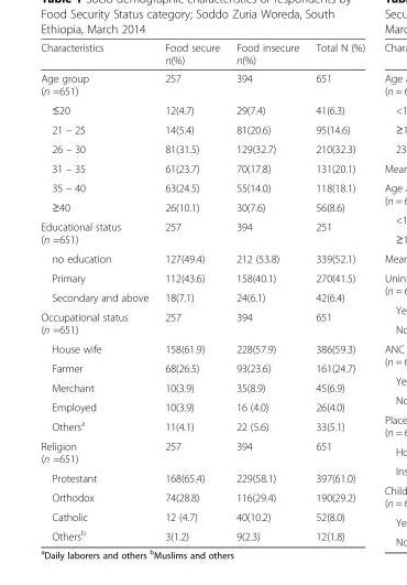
<table><thead><tr><td>Characteristics</td><td>Food secure n(%)</td><td>Food insecure n(%)</td><td>Total N (%)</td></tr></thead><tbody><tr><td>Age group (n =651)</td><td>257</td><td>394</td><td>651</td></tr><tr><td>≤20</td><td>12(4.7)</td><td>29(7.4)</td><td>41(6.3)</td></tr><tr><td>21 – 25</td><td>14(5.4)</td><td>81(20.6)</td><td>95(14.6)</td></tr><tr><td>26 – 30</td><td>81(31.5)</td><td>129(32.7)</td><td>210(32.3)</td></tr><tr><td>31 – 35</td><td>61(23.7)</td><td>70(17.8)</td><td>131(20.1)</td></tr><tr><td>35 – 40</td><td>63(24.5)</td><td>55(14.0)</td><td>118(18.1)</td></tr><tr><td>≥40</td><td>26(10.1)</td><td>30(7.6)</td><td>56(8.6)</td></tr><tr><td>Educational status (n =651)</td><td>257</td><td>394</td><td>251</td></tr><tr><td>no education</td><td>127(49.4)</td><td>212 (53.8)</td><td>339(52.1)</td></tr><tr><td>Primary</td><td>112(43.6)</td><td>158(40.1)</td><td>270(41.5)</td></tr><tr><td>Secondary and above</td><td>18(7.1)</td><td>24(6.1)</td><td>42(6.4)</td></tr><tr><td>Occupational status (n =651)</td><td>257</td><td>394</td><td>651</td></tr><tr><td>House wife</td><td>158(61.9)</td><td>228(57.9)</td><td>386(59.3)</td></tr><tr><td>Farmer</td><td>68(26.5)</td><td>93(23.6)</td><td>161(24.7)</td></tr><tr><td>Merchant</td><td>10(3.9)</td><td>35(8.9)</td><td>45(6.9)</td></tr><tr><td>Employed</td><td>10(3.9)</td><td>16 (4.0)</td><td>26(4.0)</td></tr><tr><td>Others<sup>a</sup></td><td>11(4.1)</td><td>22 (5.6)</td><td>33(5.1)</td></tr><tr><td>Religion (n =651)</td><td>257</td><td>394</td><td>651</td></tr><tr><td>Protestant</td><td>168(65.4)</td><td>229(58.1)</td><td>397(61.0)</td></tr><tr><td>Orthodox</td><td>74(28.8)</td><td>116(29.4)</td><td>190(29.2)</td></tr><tr><td>Catholic</td><td>12 (4.7)</td><td>40(10.2)</td><td>52(8.0)</td></tr><tr><td>Others<sup>b</sup></td><td>3(1.2)</td><td>9(2.3)</td><td>12(1.8)</td></tr></tbody></table>